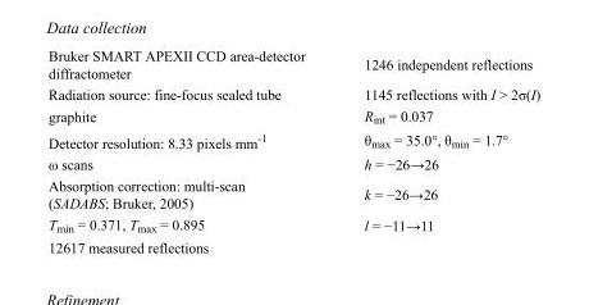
<table><tbody><tr><td>Bruker SMART APEXII CCD area-detector diffractometer</td><td>1246 independent reflections</td></tr><tr><td>Radiation source: fine-focus sealed tube</td><td>1145 reflections with I &gt; 2σ(I)</td></tr><tr><td>graphite</td><td>R<sub>int</sub> = 0.037</td></tr><tr><td>Detector resolution: 8.33 pixels mm<sup>-1</sup></td><td>θ<sub>max</sub> = 35.0°, θ<sub>min</sub> = 1.7°</td></tr><tr><td>ω scans</td><td>h = −26→26</td></tr><tr><td>Absorption correction: multi-scan (SADABS; Bruker, 2005)</td><td>k = −26→26</td></tr><tr><td>T<sub>min</sub> = 0.371, T<sub>max</sub> = 0.895</td><td>l = −11→11</td></tr><tr><td>12617 measured reflections</td><td></td></tr></tbody></table>